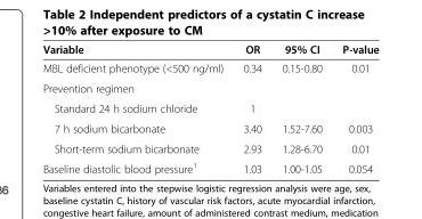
<table><thead><tr><td>Variable</td><td>OR</td><td>95% CI</td><td>P-value</td></tr></thead><tbody><tr><td>MBL deficient phenotype (&lt;500 ng/ml)</td><td>0.34</td><td>0.15-0.80</td><td>0.01</td></tr><tr><td colspan="4">Prevention regimen</td></tr><tr><td>Standard 24 h sodium chloride</td><td>1</td><td></td><td></td></tr><tr><td>7 h sodium bicarbonate</td><td>3.40</td><td>1.52-7.60</td><td>0.003</td></tr><tr><td>Short-term sodium bicarbonate</td><td>2.93</td><td>1.28-6.70</td><td>0.01</td></tr><tr><td>Baseline diastolic blood pressure<sup>1</sup></td><td>1.03</td><td>1.00-1.05</td><td>0.054</td></tr></tbody></table>